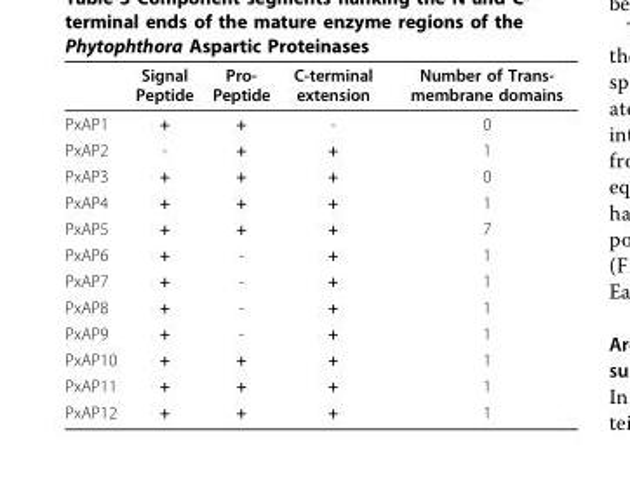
<table><thead><tr><td></td><td>Signal Peptide</td><td>Pro- Peptide</td><td>C-terminal extension</td><td>Number of Trans- membrane domains</td></tr></thead><tbody><tr><td>PxAP1</td><td>+</td><td>+</td><td>-</td><td>0</td></tr><tr><td>PxAP2</td><td>-</td><td>+</td><td>+</td><td>1</td></tr><tr><td>PxAP3</td><td>+</td><td>+</td><td>+</td><td>0</td></tr><tr><td>PxAP4</td><td>+</td><td>+</td><td>+</td><td>1</td></tr><tr><td>PxAP5</td><td>+</td><td>+</td><td>+</td><td>7</td></tr><tr><td>PxAP6</td><td>+</td><td>-</td><td>+</td><td>1</td></tr><tr><td>PxAP7</td><td>+</td><td>-</td><td>+</td><td>1</td></tr><tr><td>PxAP8</td><td>+</td><td>-</td><td>+</td><td>1</td></tr><tr><td>PxAP9</td><td>+</td><td>-</td><td>+</td><td>1</td></tr><tr><td>PxAP10</td><td>+</td><td>+</td><td>+</td><td>1</td></tr><tr><td>PxAP11</td><td>+</td><td>+</td><td>+</td><td>1</td></tr><tr><td>PxAP12</td><td>+</td><td>+</td><td>+</td><td>1</td></tr></tbody></table>